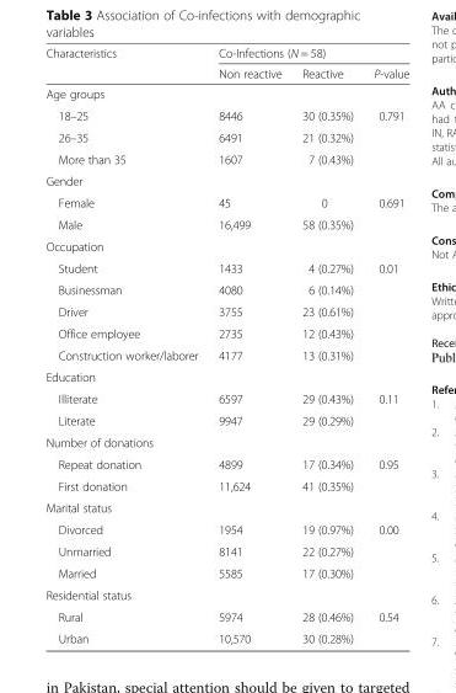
<table><thead><tr><td rowspan="2">Characteristics</td><td colspan="3">Co-Infections (N = 58)</td></tr><tr><td>Non reactive</td><td>Reactive</td><td>P-value</td></tr></thead><tbody><tr><td colspan="4">Age groups</td></tr><tr><td>18–25</td><td>8446</td><td>30 (0.35%)</td><td rowspan="3">0.791</td></tr><tr><td>26–35</td><td>6491</td><td>21 (0.32%)</td></tr><tr><td>More than 35</td><td>1607</td><td>7 (0.43%)</td></tr><tr><td colspan="4">Gender</td></tr><tr><td>Female</td><td>45</td><td>0</td><td rowspan="2">0.691</td></tr><tr><td>Male</td><td>16,499</td><td>58 (0.35%)</td></tr><tr><td colspan="4">Occupation</td></tr><tr><td>Student</td><td>1433</td><td>4 (0.27%)</td><td rowspan="5">0.01</td></tr><tr><td>Businessman</td><td>4080</td><td>6 (0.14%)</td></tr><tr><td>Driver</td><td>3755</td><td>23 (0.61%)</td></tr><tr><td>Office employee</td><td>2735</td><td>12 (0.43%)</td></tr><tr><td>Construction worker/laborer</td><td>4177</td><td>13 (0.31%)</td></tr><tr><td colspan="4">Education</td></tr><tr><td>Illiterate</td><td>6597</td><td>29 (0.43%)</td><td rowspan="2">0.11</td></tr><tr><td>Literate</td><td>9947</td><td>29 (0.29%)</td></tr><tr><td colspan="4">Number of donations</td></tr><tr><td>Repeat donation</td><td>4899</td><td>17 (0.34%)</td><td rowspan="2">0.95</td></tr><tr><td>First donation</td><td>11,624</td><td>41 (0.35%)</td></tr><tr><td colspan="4">Marital status</td></tr><tr><td>Divorced</td><td>1954</td><td>19 (0.97%)</td><td rowspan="3">0.00</td></tr><tr><td>Unmarried</td><td>8141</td><td>22 (0.27%)</td></tr><tr><td>Married</td><td>5585</td><td>17 (0.30%)</td></tr><tr><td colspan="4">Residential status</td></tr><tr><td>Rural</td><td>5974</td><td>28 (0.46%)</td><td rowspan="2">0.54</td></tr><tr><td>Urban</td><td>10,570</td><td>30 (0.28%)</td></tr></tbody></table>